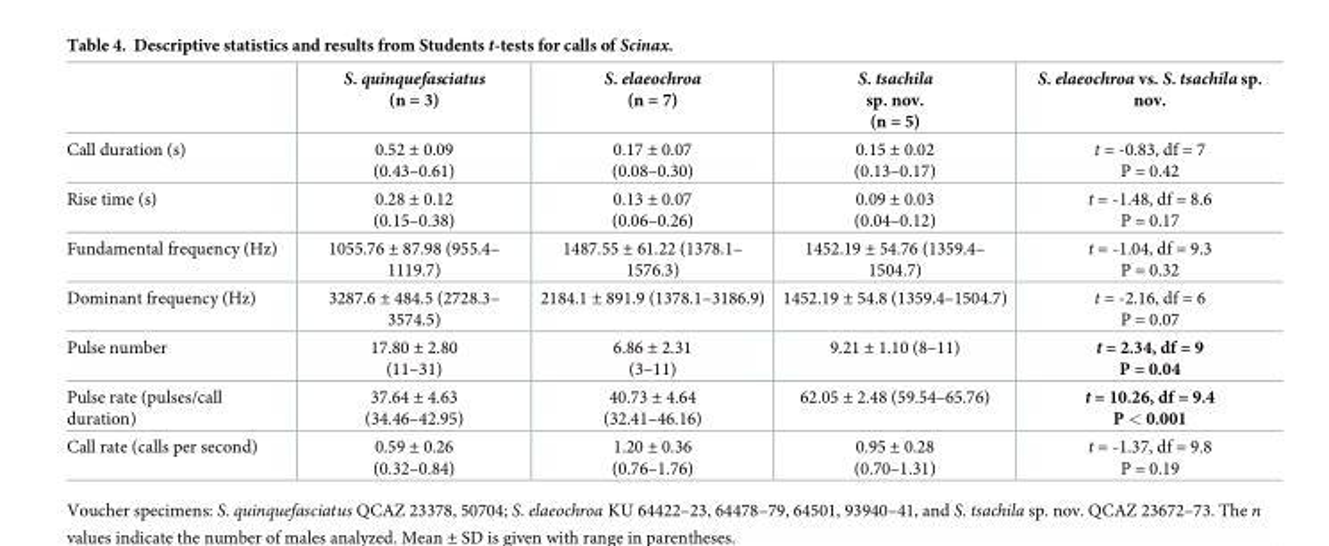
<table><thead><tr><td></td><td>S. quinquefasciatus (n = 3)</td><td>S. elaeochroa (n = 7)</td><td>S. tsachila sp. nov. (n = 5)</td><td>S. elaeochroa vs. S. tsachila sp. nov.</td></tr></thead><tbody><tr><td>Call duration (s)</td><td>0.52 ± 0.09 (0.43–0.61)</td><td>0.17 ± 0.07 (0.08–0.30)</td><td>0.15 ± 0.02 (0.13–0.17)</td><td>t = -0.83, df = 7 P = 0.42</td></tr><tr><td>Rise time (s)</td><td>0.28 ± 0.12 (0.15–0.38)</td><td>0.13 ± 0.07 (0.06–0.26)</td><td>0.09 ± 0.03 (0.04–0.12)</td><td>t = -1.48, df = 8.6 P = 0.17</td></tr><tr><td>Fundamental frequency (Hz)</td><td>1055.76 ± 87.98 (955.4– 1119.7)</td><td>1487.55 ± 61.22 (1378.1– 1576.3)</td><td>1452.19 ± 54.76 (1359.4– 1504.7)</td><td>t = -1.04, df = 9.3 P = 0.32</td></tr><tr><td>Dominant frequency (Hz)</td><td>3287.6 ± 484.5 (2728.3– 3574.5)</td><td>2184.1 ± 891.9 (1378.1–3186.9)</td><td>1452.19 ± 54.8 (1359.4–1504.7)</td><td>t = -2.16, df = 6 P = 0.07</td></tr><tr><td>Pulse number</td><td>17.80 ± 2.80 (11–31)</td><td>6.86 ± 2.31 (3–11)</td><td>9.21 ± 1.10 (8–11)</td><td>t = 2.34, df = 9 P = 0.04</td></tr><tr><td>Pulse rate (pulses/call duration)</td><td>37.64 ± 4.63 (34.46–42.95)</td><td>40.73 ± 4.64 (32.41–46.16)</td><td>62.05 ± 2.48 (59.54–65.76)</td><td>t = 10.26, df = 9.4 P &lt; 0.001</td></tr><tr><td>Call rate (calls per second)</td><td>0.59 ± 0.26 (0.32–0.84)</td><td>1.20 ± 0.36 (0.76–1.76)</td><td>0.95 ± 0.28 (0.70–1.31)</td><td>t = -1.37, df = 9.8 P = 0.19</td></tr></tbody></table>